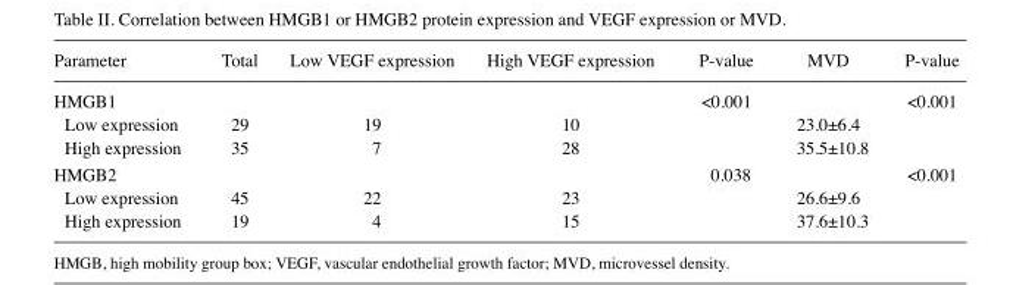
<table><thead><tr><td>Parameter</td><td>Total</td><td>Low VEGF expression</td><td>High VEGF expression</td><td>P-value</td><td>MVD</td><td>P-value</td></tr></thead><tbody><tr><td>HMGB1</td><td></td><td></td><td></td><td>&lt;0.001</td><td></td><td>&lt;0.001</td></tr><tr><td>Low expression</td><td>29</td><td>19</td><td>10</td><td></td><td>23.0±6.4</td><td></td></tr><tr><td>High expression</td><td>35</td><td>7</td><td>28</td><td></td><td>35.5±10.8</td><td></td></tr><tr><td>HMGB2</td><td></td><td></td><td></td><td>0.038</td><td></td><td>&lt;0.001</td></tr><tr><td>Low expression</td><td>45</td><td>22</td><td>23</td><td></td><td>26.6±9.6</td><td></td></tr><tr><td>High expression</td><td>19</td><td>4</td><td>15</td><td></td><td>37.6±10.3</td><td></td></tr></tbody></table>